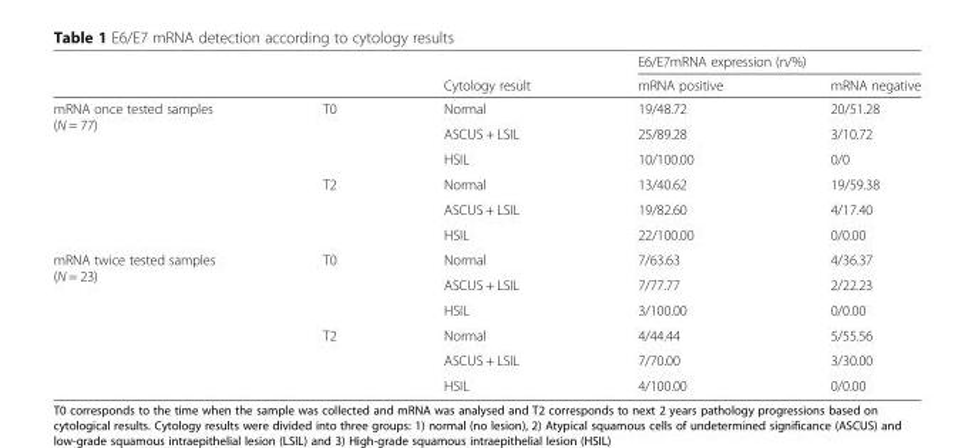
<table><thead><tr><td rowspan="2"></td><td rowspan="2"></td><td rowspan="2">Cytology result</td><td colspan="2">E6/E7mRNA expression (n/%)</td></tr><tr><td>mRNA positive</td><td>mRNA negative</td></tr></thead><tbody><tr><td rowspan="6">mRNA once tested samples (N = 77)</td><td rowspan="3">T0</td><td>Normal</td><td>19/48.72</td><td>20/51.28</td></tr><tr><td>ASCUS + LSIL</td><td>25/89.28</td><td>3/10.72</td></tr><tr><td>HSIL</td><td>10/100.00</td><td>0/0</td></tr><tr><td rowspan="3">T2</td><td>Normal</td><td>13/40.62</td><td>19/59.38</td></tr><tr><td>ASCUS + LSIL</td><td>19/82.60</td><td>4/17.40</td></tr><tr><td>HSIL</td><td>22/100.00</td><td>0/0.00</td></tr><tr><td rowspan="6">mRNA twice tested samples (N = 23)</td><td rowspan="3">T0</td><td>Normal</td><td>7/63.63</td><td>4/36.37</td></tr><tr><td>ASCUS + LSIL</td><td>7/77.77</td><td>2/22.23</td></tr><tr><td>HSIL</td><td>3/100.00</td><td>0/0.00</td></tr><tr><td rowspan="3">T2</td><td>Normal</td><td>4/44.44</td><td>5/55.56</td></tr><tr><td>ASCUS + LSIL</td><td>7/70.00</td><td>3/30.00</td></tr><tr><td>HSIL</td><td>4/100.00</td><td>0/0.00</td></tr></tbody></table>